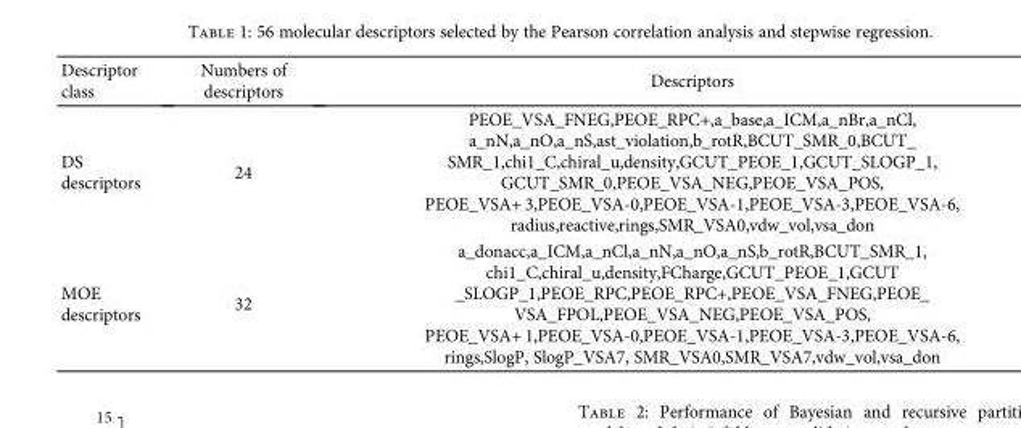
<table><thead><tr><td>Descriptor class</td><td>Numbers of descriptors</td><td>Descriptors</td></tr></thead><tbody><tr><td>DS descriptors</td><td>24</td><td>PEOE_VSA_FNEG,PEOE_RPC+,a_base,a_ICM,a_nBr,a_nCl, a_nN,a_nO,a_nS,ast_violation,b_rotR,BCUT_SMR_0,BCUT_ SMR_1,chi1_C,chiral_u,density,GCUT_PEOE_1,GCUT_SLOGP_1, GCUT_SMR_0,PEOE_VSA_NEG,PEOE_VSA_POS, PEOE_VSA+ 3,PEOE_VSA-0,PEOE_VSA-1,PEOE_VSA-3,PEOE_VSA-6, radius,reactive,rings,SMR_VSA0,vdw_vol,vsa_don</td></tr><tr><td>MOE descriptors</td><td>32</td><td>a_donacc,a_ICM,a_nCl,a_nN,a_nO,a_nS,b_rotR,BCUT_SMR_1, chi1_C,chiral_u,density,FCharge,GCUT_PEOE_1,GCUT _SLOGP_1,PEOE_RPC,PEOE_RPC+,PEOE_VSA_FNEG,PEOE_ VSA_FPOL,PEOE_VSA_NEG,PEOE_VSA_POS, PEOE_VSA+ 1,PEOE_VSA-0,PEOE_VSA-1,PEOE_VSA-3,PEOE_VSA-6, rings,SlogP, SlogP_VSA7, SMR_VSA0,SMR_VSA7,vdw_vol,vsa_don</td></tr></tbody></table>